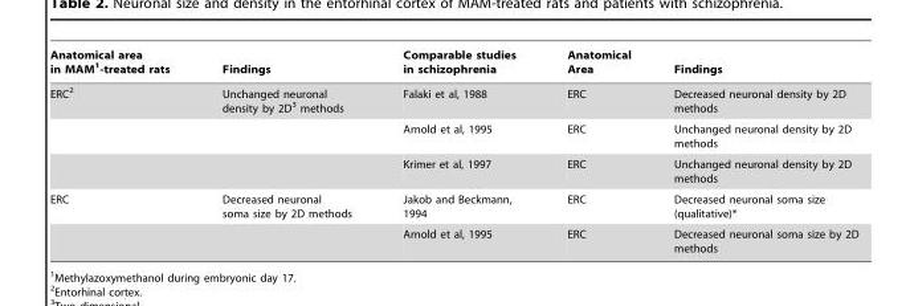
<table><thead><tr><td>Anatomical area in MAM<sup>1</sup>-treated rats</td><td>Findings</td><td>Comparable studies in schizophrenia</td><td>Anatomical Area</td><td>Findings</td></tr></thead><tbody><tr><td rowspan="3">ERC<sup>2</sup></td><td>Unchanged neuronal density by 2D<sup>3</sup> methods</td><td>Falaki et al, 1988</td><td>ERC</td><td>Decreased neuronal density by 2D methods</td></tr><tr><td></td><td>Arnold et al, 1995</td><td>ERC</td><td>Unchanged neuronal density by 2D methods</td></tr><tr><td></td><td>Krimer et al, 1997</td><td>ERC</td><td>Unchanged neuronal density by 2D methods</td></tr><tr><td rowspan="2">ERC</td><td>Decreased neuronal soma size by 2D methods</td><td>Jakob and Beckmann, 1994</td><td>ERC</td><td>Decreased neuronal soma size (qualitative)*</td></tr><tr><td></td><td>Arnold et al, 1995</td><td>ERC</td><td>Decreased neuronal soma size by 2D methods</td></tr></tbody></table>